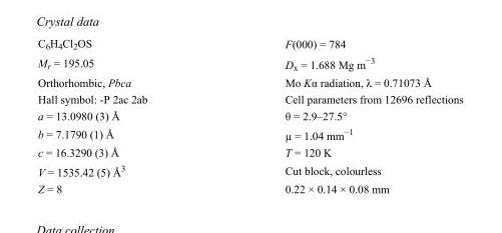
<table><tbody><tr><td>C<sub>6</sub>H<sub>4</sub>Cl<sub>2</sub>OS</td><td>F(000) = 784</td></tr><tr><td>M<sub>r</sub> = 195.05</td><td>D<sub>x</sub> = 1.688 Mg m<sup>−3</sup></td></tr><tr><td>Orthorhombic, Pbca</td><td>Mo Kα radiation, λ = 0.71073 Å</td></tr><tr><td>Hall symbol: -P 2ac 2ab</td><td>Cell parameters from 12696 reflections</td></tr><tr><td>a = 13.0980 (3) Å</td><td>θ = 2.9–27.5°</td></tr><tr><td>b = 7.1790 (1) Å</td><td>µ = 1.04 mm<sup>−1</sup></td></tr><tr><td>c = 16.3290 (3) Å</td><td>T = 120 K</td></tr><tr><td>V = 1535.42 (5) Å<sup>3</sup></td><td>Cut block, colourless</td></tr><tr><td>Z = 8</td><td>0.22 × 0.14 × 0.08 mm</td></tr></tbody></table>